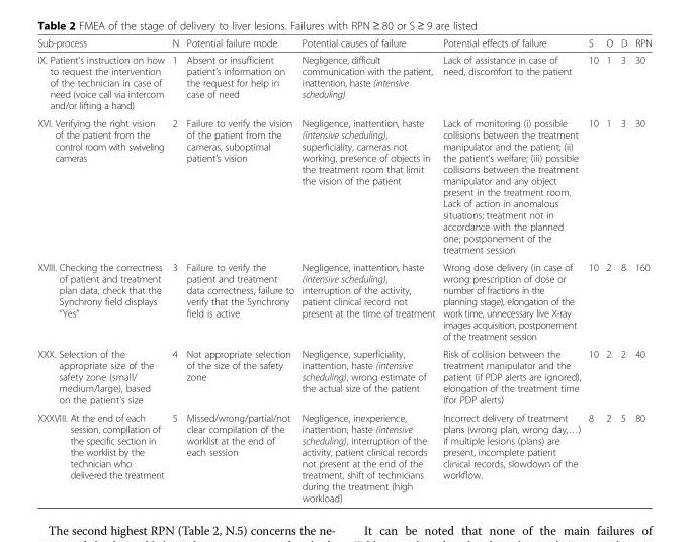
<table><thead><tr><td>Sub-process</td><td>N</td><td>Potential failure mode</td><td>Potential causes of failure</td><td>Potential effects of failure</td><td>S</td><td>O</td><td>D</td><td>RPN</td></tr></thead><tbody><tr><td>IX. Patient’s instruction on how to request the intervention of the technician in case of need (voice call via intercom and/or lifting a hand)</td><td>1</td><td>Absent or insufficient patient’s information on the request for help in case of need</td><td>Negligence, difficult communication with the patient, inattention, haste (intensive scheduling)</td><td>Lack of assistance in case of need, discomfort to the patient</td><td>10</td><td>1</td><td>3</td><td>30</td></tr><tr><td>XVI. Verifying the right vision of the patient from the control room with swiveling cameras</td><td>2</td><td>Failure to verify the vision of the patient from the cameras, suboptimal patient’s vision</td><td>Negligence, inattention, haste (intensive scheduling), superficiality, cameras not working, presence of objects in the treatment room that limit the vision of the patient</td><td>Lack of monitoring (i) possible collisions between the treatment manipulator and the patient; (ii) the patient’s welfare; (iii) possible collisions between the treatment manipulator and any object present in the treatment room. Lack of action in anomalous situations; treatment not in accordance with the planned one; postponement of the treatment session</td><td>10</td><td>1</td><td>3</td><td>30</td></tr><tr><td>XVIII. Checking the correctness of patient and treatment plan data, check that the Synchrony field displays “Yes”</td><td>3</td><td>Failure to verify the patient and treatment data correctness, failure to verify that the Synchrony field is active</td><td>Negligence, inattention, haste (intensive scheduling), interruption of the activity, patient clinical record not present at the time of treatment</td><td>Wrong dose delivery (in case of wrong prescription of dose or number of fractions in the planning stage), elongation of the work time, unnecessary live X-ray images acquisition, postponement of the treatment session</td><td>10</td><td>2</td><td>8</td><td>160</td></tr><tr><td>XXX. Selection of the appropriate size of the safety zone (small/ medium/large), based on the patient’s size</td><td>4</td><td>Not appropriate selection of the size of the safety zone</td><td>Negligence, superficiality, inattention, haste (intensive scheduling), wrong estimate of the actual size of the patient</td><td>Risk of collision between the treatment manipulator and the patient (if PDP alerts are ignored), elongation of the treatment time (for PDP alerts)</td><td>10</td><td>2</td><td>2</td><td>40</td></tr><tr><td>XXXVIII. At the end of each session, compilation of the specific section in the worklist by the technician who delivered the treatment</td><td>5</td><td>Missed/wrong/partial/not clear compilation of the worklist at the end of each session</td><td>Negligence, inexperience, inattention, haste (intensive scheduling), interruption of the activity, patient clinical records not present at the end of the treatment, shift of technicians during the treatment (high workload)</td><td>Incorrect delivery of treatment plans (wrong plan, wrong day,…) if multiple lesions (plans) are present, incomplete patient clinical records, slowdown of the workflow.</td><td>8</td><td>2</td><td>5</td><td>80</td></tr></tbody></table>